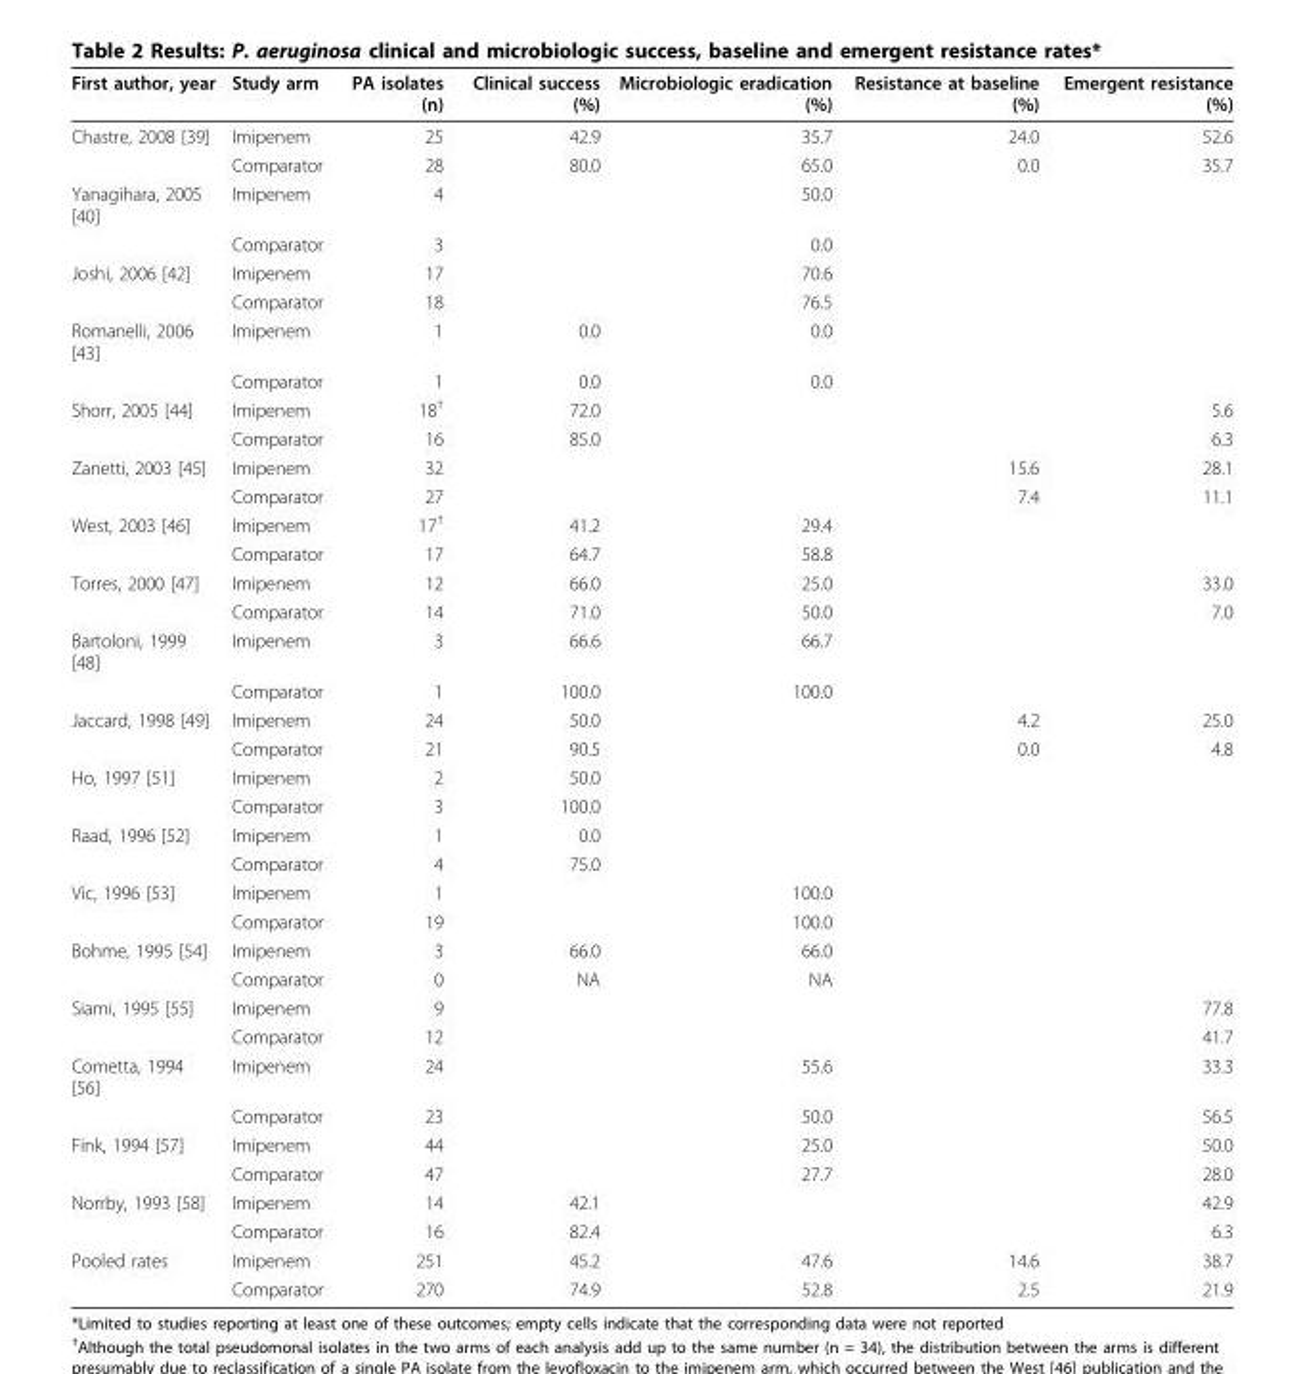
<table><thead><tr><td>First author, year</td><td>Study arm</td><td>PA isolates (n)</td><td>Clinical success (%)</td><td>Microbiologic eradication (%)</td><td>Resistance at baseline (%)</td><td>Emergent resistance (%)</td></tr></thead><tbody><tr><td rowspan="2">Chastre, 2008 [39]</td><td>Imipenem</td><td>25</td><td>42.9</td><td>35.7</td><td>24.0</td><td>52.6</td></tr><tr><td>Comparator</td><td>28</td><td>80.0</td><td>65.0</td><td>0.0</td><td>35.7</td></tr><tr><td rowspan="2">Yanagihara, 2005 [40]</td><td>Imipenem</td><td>4</td><td></td><td>50.0</td><td></td><td></td></tr><tr><td>Comparator</td><td>3</td><td></td><td>0.0</td><td></td><td></td></tr><tr><td rowspan="2">Joshi, 2006 [42]</td><td>Imipenem</td><td>17</td><td></td><td>70.6</td><td></td><td></td></tr><tr><td>Comparator</td><td>18</td><td></td><td>76.5</td><td></td><td></td></tr><tr><td rowspan="2">Romanelli, 2006 [43]</td><td>Imipenem</td><td>1</td><td>0.0</td><td>0.0</td><td></td><td></td></tr><tr><td>Comparator</td><td>1</td><td>0.0</td><td>0.0</td><td></td><td></td></tr><tr><td rowspan="2">Shorr, 2005 [44]</td><td>Imipenem</td><td>18<sup>†</sup></td><td>72.0</td><td></td><td></td><td>5.6</td></tr><tr><td>Comparator</td><td>16</td><td>85.0</td><td></td><td></td><td>6.3</td></tr><tr><td rowspan="2">Zanetti, 2003 [45]</td><td>Imipenem</td><td>32</td><td></td><td></td><td>15.6</td><td>28.1</td></tr><tr><td>Comparator</td><td>27</td><td></td><td></td><td>7.4</td><td>11.1</td></tr><tr><td rowspan="2">West, 2003 [46]</td><td>Imipenem</td><td>17<sup>†</sup></td><td>41.2</td><td>29.4</td><td></td><td></td></tr><tr><td>Comparator</td><td>17</td><td>64.7</td><td>58.8</td><td></td><td></td></tr><tr><td rowspan="2">Torres, 2000 [47]</td><td>Imipenem</td><td>12</td><td>66.0</td><td>25.0</td><td></td><td>33.0</td></tr><tr><td>Comparator</td><td>14</td><td>71.0</td><td>50.0</td><td></td><td>7.0</td></tr><tr><td rowspan="2">Bartoloni, 1999 [48]</td><td>Imipenem</td><td>3</td><td>66.6</td><td>66.7</td><td></td><td></td></tr><tr><td>Comparator</td><td>1</td><td>100.0</td><td>100.0</td><td></td><td></td></tr><tr><td rowspan="2">Jaccard, 1998 [49]</td><td>Imipenem</td><td>24</td><td>50.0</td><td></td><td>4.2</td><td>25.0</td></tr><tr><td>Comparator</td><td>21</td><td>90.5</td><td></td><td>0.0</td><td>4.8</td></tr><tr><td rowspan="2">Ho, 1997 [51]</td><td>Imipenem</td><td>2</td><td>50.0</td><td></td><td></td><td></td></tr><tr><td>Comparator</td><td>3</td><td>100.0</td><td></td><td></td><td></td></tr><tr><td rowspan="2">Raad, 1996 [52]</td><td>Imipenem</td><td>1</td><td>0.0</td><td></td><td></td><td></td></tr><tr><td>Comparator</td><td>4</td><td>75.0</td><td></td><td></td><td></td></tr><tr><td rowspan="2">Vic, 1996 [53]</td><td>Imipenem</td><td>1</td><td></td><td>100.0</td><td></td><td></td></tr><tr><td>Comparator</td><td>19</td><td></td><td>100.0</td><td></td><td></td></tr><tr><td rowspan="2">Bohme, 1995 [54]</td><td>Imipenem</td><td>3</td><td>66.0</td><td>66.0</td><td></td><td></td></tr><tr><td>Comparator</td><td>0</td><td>NA</td><td>NA</td><td></td><td></td></tr><tr><td rowspan="2">Siami, 1995 [55]</td><td>Imipenem</td><td>9</td><td></td><td></td><td></td><td>77.8</td></tr><tr><td>Comparator</td><td>12</td><td></td><td></td><td></td><td>41.7</td></tr><tr><td rowspan="2">Cometta, 1994 [56]</td><td>Imipenem</td><td>24</td><td></td><td>55.6</td><td></td><td>33.3</td></tr><tr><td>Comparator</td><td>23</td><td></td><td>50.0</td><td></td><td>56.5</td></tr><tr><td rowspan="2">Fink, 1994 [57]</td><td>Imipenem</td><td>44</td><td></td><td>25.0</td><td></td><td>50.0</td></tr><tr><td>Comparator</td><td>47</td><td></td><td>27.7</td><td></td><td>28.0</td></tr><tr><td rowspan="2">Norrby, 1993 [58]</td><td>Imipenem</td><td>14</td><td>42.1</td><td></td><td></td><td>42.9</td></tr><tr><td>Comparator</td><td>16</td><td>82.4</td><td></td><td></td><td>6.3</td></tr><tr><td rowspan="2">Pooled rates</td><td>Imipenem</td><td>251</td><td>45.2</td><td>47.6</td><td>14.6</td><td>38.7</td></tr><tr><td>Comparator</td><td>270</td><td>74.9</td><td>52.8</td><td>2.5</td><td>21.9</td></tr></tbody></table>